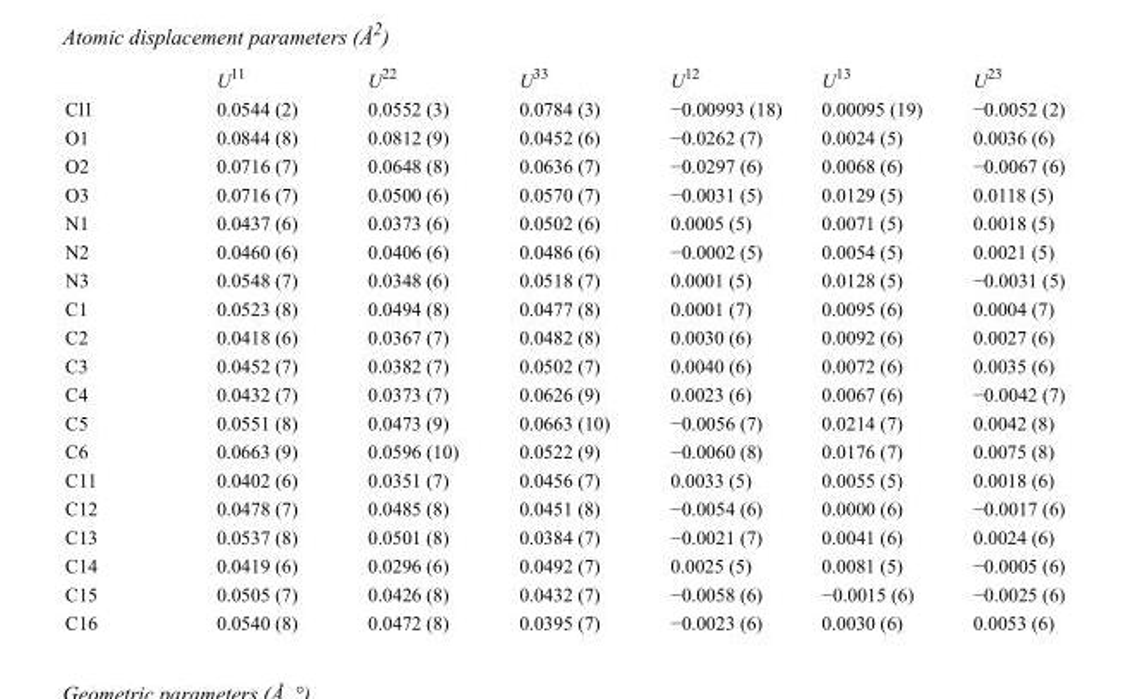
<table><thead><tr><td></td><td>U<sup>11</sup></td><td>U<sup>22</sup></td><td>U<sup>33</sup></td><td>U<sup>12</sup></td><td>U<sup>13</sup></td><td>U<sup>23</sup></td></tr></thead><tbody><tr><td>Cl1</td><td>0.0544 (2)</td><td>0.0552 (3)</td><td>0.0784 (3)</td><td>−0.00993 (18)</td><td>0.00095 (19)</td><td>−0.0052 (2)</td></tr><tr><td>O1</td><td>0.0844 (8)</td><td>0.0812 (9)</td><td>0.0452 (6)</td><td>−0.0262 (7)</td><td>0.0024 (5)</td><td>0.0036 (6)</td></tr><tr><td>O2</td><td>0.0716 (7)</td><td>0.0648 (8)</td><td>0.0636 (7)</td><td>−0.0297 (6)</td><td>0.0068 (6)</td><td>−0.0067 (6)</td></tr><tr><td>O3</td><td>0.0716 (7)</td><td>0.0500 (6)</td><td>0.0570 (7)</td><td>−0.0031 (5)</td><td>0.0129 (5)</td><td>0.0118 (5)</td></tr><tr><td>N1</td><td>0.0437 (6)</td><td>0.0373 (6)</td><td>0.0502 (6)</td><td>0.0005 (5)</td><td>0.0071 (5)</td><td>0.0018 (5)</td></tr><tr><td>N2</td><td>0.0460 (6)</td><td>0.0406 (6)</td><td>0.0486 (6)</td><td>−0.0002 (5)</td><td>0.0054 (5)</td><td>0.0021 (5)</td></tr><tr><td>N3</td><td>0.0548 (7)</td><td>0.0348 (6)</td><td>0.0518 (7)</td><td>0.0001 (5)</td><td>0.0128 (5)</td><td>−0.0031 (5)</td></tr><tr><td>C1</td><td>0.0523 (8)</td><td>0.0494 (8)</td><td>0.0477 (8)</td><td>0.0001 (7)</td><td>0.0095 (6)</td><td>0.0004 (7)</td></tr><tr><td>C2</td><td>0.0418 (6)</td><td>0.0367 (7)</td><td>0.0482 (8)</td><td>0.0030 (6)</td><td>0.0092 (6)</td><td>0.0027 (6)</td></tr><tr><td>C3</td><td>0.0452 (7)</td><td>0.0382 (7)</td><td>0.0502 (7)</td><td>0.0040 (6)</td><td>0.0072 (6)</td><td>0.0035 (6)</td></tr><tr><td>C4</td><td>0.0432 (7)</td><td>0.0373 (7)</td><td>0.0626 (9)</td><td>0.0023 (6)</td><td>0.0067 (6)</td><td>−0.0042 (7)</td></tr><tr><td>C5</td><td>0.0551 (8)</td><td>0.0473 (9)</td><td>0.0663 (10)</td><td>−0.0056 (7)</td><td>0.0214 (7)</td><td>0.0042 (8)</td></tr><tr><td>C6</td><td>0.0663 (9)</td><td>0.0596 (10)</td><td>0.0522 (9)</td><td>−0.0060 (8)</td><td>0.0176 (7)</td><td>0.0075 (8)</td></tr><tr><td>C11</td><td>0.0402 (6)</td><td>0.0351 (7)</td><td>0.0456 (7)</td><td>0.0033 (5)</td><td>0.0055 (5)</td><td>0.0018 (6)</td></tr><tr><td>C12</td><td>0.0478 (7)</td><td>0.0485 (8)</td><td>0.0451 (8)</td><td>−0.0054 (6)</td><td>0.0000 (6)</td><td>−0.0017 (6)</td></tr><tr><td>C13</td><td>0.0537 (8)</td><td>0.0501 (8)</td><td>0.0384 (7)</td><td>−0.0021 (7)</td><td>0.0041 (6)</td><td>0.0024 (6)</td></tr><tr><td>C14</td><td>0.0419 (6)</td><td>0.0296 (6)</td><td>0.0492 (7)</td><td>0.0025 (5)</td><td>0.0081 (5)</td><td>−0.0005 (6)</td></tr><tr><td>C15</td><td>0.0505 (7)</td><td>0.0426 (8)</td><td>0.0432 (7)</td><td>−0.0058 (6)</td><td>−0.0015 (6)</td><td>−0.0025 (6)</td></tr><tr><td>C16</td><td>0.0540 (8)</td><td>0.0472 (8)</td><td>0.0395 (7)</td><td>−0.0023 (6)</td><td>0.0030 (6)</td><td>0.0053 (6)</td></tr></tbody></table>